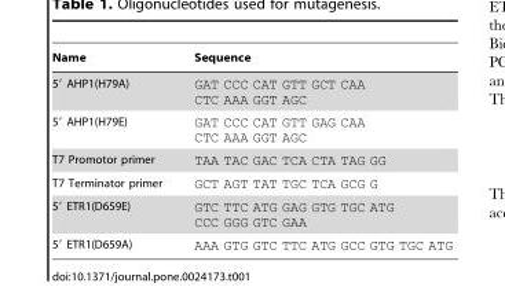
<table><thead><tr><td>Name</td><td>Sequence</td></tr></thead><tbody><tr><td>5′ AHP1(H79A)</td><td>GAT CCC CAT GTT GCT CAA CTC AAA GGT AGC</td></tr><tr><td>5′ AHP1(H79E)</td><td>GAT CCC CAT GTT GAG CAA CTC AAA GGT AGC</td></tr><tr><td>T7 Promotor primer</td><td>TAA TAC GAC TCA CTA TAG GG</td></tr><tr><td>T7 Terminator primer</td><td>GCT AGT TAT TGC TCA GCG G</td></tr><tr><td>5′ ETR1(D659E)</td><td>GTC TTC ATG GAG GTG TGC ATG CCC GGG GTC GAA</td></tr><tr><td>5′ ETR1(D659A)</td><td>AAA GTG GTC TTC ATG GCC GTG TGC ATG</td></tr></tbody></table>